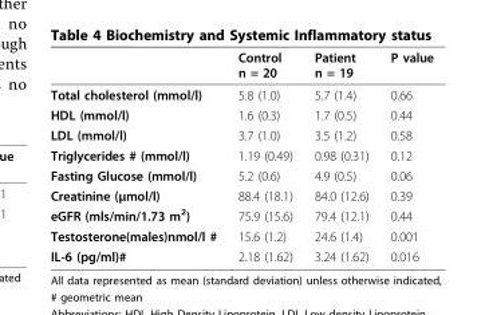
<table><thead><tr><td></td><td>Control n = 20</td><td>Patient n = 19</td><td>P value</td></tr></thead><tbody><tr><td>Total cholesterol (mmol/l)</td><td>5.8 (1.0)</td><td>5.7 (1.4)</td><td>0.66</td></tr><tr><td>HDL (mmol/l)</td><td>1.6 (0.3)</td><td>1.7 (0.5)</td><td>0.44</td></tr><tr><td>LDL (mmol/l)</td><td>3.7 (1.0)</td><td>3.5 (1.2)</td><td>0.58</td></tr><tr><td>Triglycerides # (mmol/l)</td><td>1.19 (0.49)</td><td>0.98 (0.31)</td><td>0.12</td></tr><tr><td>Fasting Glucose (mmol/l)</td><td>5.2 (0.6)</td><td>4.9 (0.5)</td><td>0.06</td></tr><tr><td>Creatinine (μmol/l)</td><td>88.4 (18.1)</td><td>84.0 (12.6)</td><td>0.39</td></tr><tr><td>eGFR (mls/min/1.73 m<sup>2</sup>)</td><td>75.9 (15.6)</td><td>79.4 (12.1)</td><td>0.44</td></tr><tr><td>Testosterone(males)nmol/l #</td><td>15.6 (1.2)</td><td>24.6 (1.4)</td><td>0.001</td></tr><tr><td>IL-6 (pg/ml)#</td><td>2.18 (1.62)</td><td>3.24 (1.62)</td><td>0.016</td></tr></tbody></table>